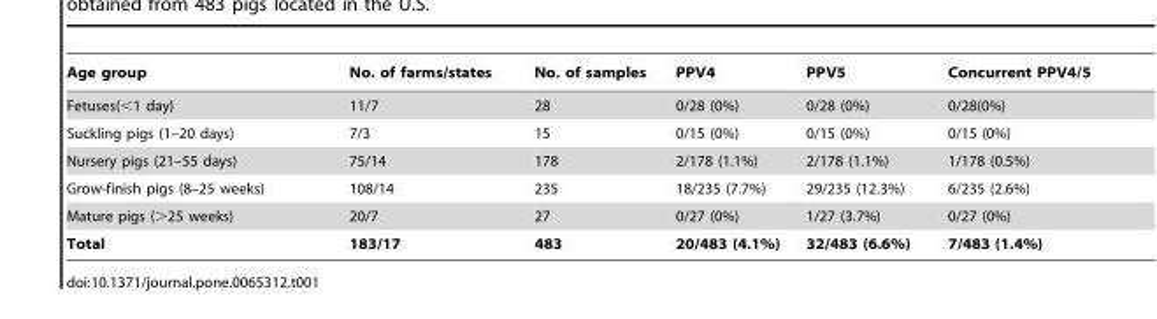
<table><thead><tr><td>Age group</td><td>No. of farms/states</td><td>No. of samples</td><td>PPV4</td><td>PPV5</td><td>Concurrent PPV4/5</td></tr></thead><tbody><tr><td>Fetuses(&lt;1 day)</td><td>11/7</td><td>28</td><td>0/28 (0%)</td><td>0/28 (0%)</td><td>0/28(0%)</td></tr><tr><td>Suckling pigs (1–20 days)</td><td>7/3</td><td>15</td><td>0/15 (0%)</td><td>0/15 (0%)</td><td>0/15 (0%)</td></tr><tr><td>Nursery pigs (21–55 days)</td><td>75/14</td><td>178</td><td>2/178 (1.1%)</td><td>2/178 (1.1%)</td><td>1/178 (0.5%)</td></tr><tr><td>Grow-finish pigs (8–25 weeks)</td><td>108/14</td><td>235</td><td>18/235 (7.7%)</td><td>29/235 (12.3%)</td><td>6/235 (2.6%)</td></tr><tr><td>Mature pigs (&gt;25 weeks)</td><td>20/7</td><td>27</td><td>0/27 (0%)</td><td>1/27 (3.7%)</td><td>0/27 (0%)</td></tr><tr><td>Total</td><td>183/17</td><td>483</td><td>20/483 (4.1%)</td><td>32/483 (6.6%)</td><td>7/483 (1.4%)</td></tr></tbody></table>